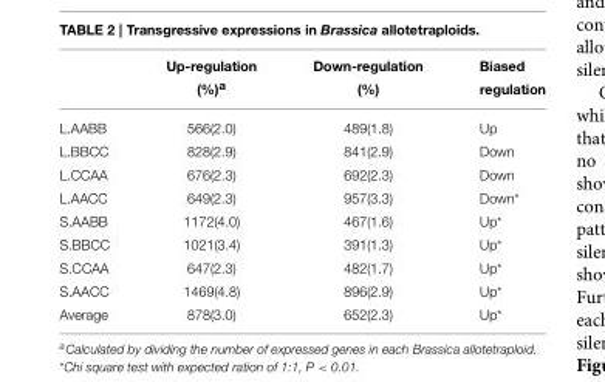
<table><thead><tr><td></td><td>Up-regulation (%)<sup>a</sup></td><td>Down-regulation (%)</td><td>Biased regulation</td></tr></thead><tbody><tr><td>L.AABB</td><td>566(2.0)</td><td>489(1.8)</td><td>Up</td></tr><tr><td>L.BBCC</td><td>828(2.9)</td><td>841(2.9)</td><td>Down</td></tr><tr><td>L.CCAA</td><td>676(2.3)</td><td>692(2.3)</td><td>Down</td></tr><tr><td>L.AACC</td><td>649(2.3)</td><td>957(3.3)</td><td>Down*</td></tr><tr><td>S.AABB</td><td>1172(4.0)</td><td>467(1.6)</td><td>Up*</td></tr><tr><td>S.BBCC</td><td>1021(3.4)</td><td>391(1.3)</td><td>Up*</td></tr><tr><td>S.CCAA</td><td>647(2.3)</td><td>482(1.7)</td><td>Up*</td></tr><tr><td>S.AACC</td><td>1469(4.8)</td><td>896(2.9)</td><td>Up*</td></tr><tr><td>Average</td><td>878(3.0)</td><td>652(2.3)</td><td>Up*</td></tr></tbody></table>